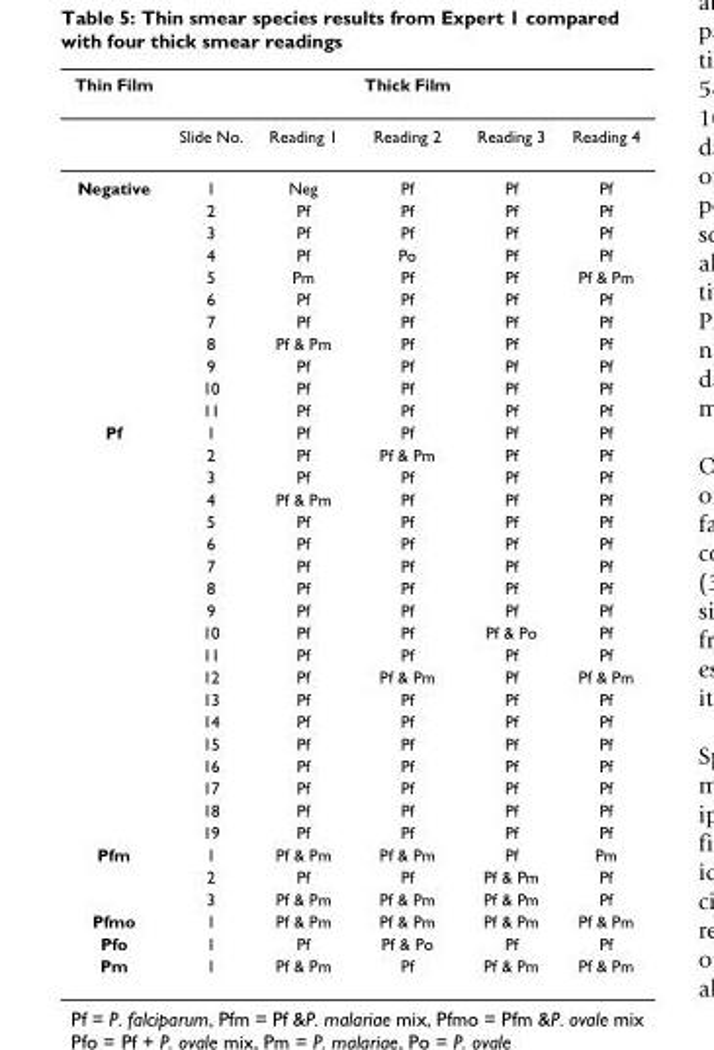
<table><thead><tr><td>Thin Film</td><td></td><td></td><td>Thick Film</td><td></td><td></td></tr></thead><tbody><tr><td></td><td>Slide No.</td><td>Reading 1</td><td>Reading 2</td><td>Reading 3</td><td>Reading 4</td></tr><tr><td rowspan="11">Negative</td><td>1</td><td>Neg</td><td>Pf</td><td>Pf</td><td>Pf</td></tr><tr><td>2</td><td>Pf</td><td>Pf</td><td>Pf</td><td>Pf</td></tr><tr><td>3</td><td>Pf</td><td>Pf</td><td>Pf</td><td>Pf</td></tr><tr><td>4</td><td>Pf</td><td>Po</td><td>Pf</td><td>Pf</td></tr><tr><td>5</td><td>Pm</td><td>Pf</td><td>Pf</td><td>Pf &amp; Pm</td></tr><tr><td>6</td><td>Pf</td><td>Pf</td><td>Pf</td><td>Pf</td></tr><tr><td>7</td><td>Pf</td><td>Pf</td><td>Pf</td><td>Pf</td></tr><tr><td>8</td><td>Pf &amp; Pm</td><td>Pf</td><td>Pf</td><td>Pf</td></tr><tr><td>9</td><td>Pf</td><td>Pf</td><td>Pf</td><td>Pf</td></tr><tr><td>10</td><td>Pf</td><td>Pf</td><td>Pf</td><td>Pf</td></tr><tr><td>11</td><td>Pf</td><td>Pf</td><td>Pf</td><td>Pf</td></tr><tr><td rowspan="19">Pf</td><td>1</td><td>Pf</td><td>Pf</td><td>Pf</td><td>Pf</td></tr><tr><td>2</td><td>Pf</td><td>Pf &amp; Pm</td><td>Pf</td><td>Pf</td></tr><tr><td>3</td><td>Pf</td><td>Pf</td><td>Pf</td><td>Pf</td></tr><tr><td>4</td><td>Pf &amp; Pm</td><td>Pf</td><td>Pf</td><td>Pf</td></tr><tr><td>5</td><td>Pf</td><td>Pf</td><td>Pf</td><td>Pf</td></tr><tr><td>6</td><td>Pf</td><td>Pf</td><td>Pf</td><td>Pf</td></tr><tr><td>7</td><td>Pf</td><td>Pf</td><td>Pf</td><td>Pf</td></tr><tr><td>8</td><td>Pf</td><td>Pf</td><td>Pf</td><td>Pf</td></tr><tr><td>9</td><td>Pf</td><td>Pf</td><td>Pf</td><td>Pf</td></tr><tr><td>10</td><td>Pf</td><td>Pf</td><td>Pf &amp; Po</td><td>Pf</td></tr><tr><td>11</td><td>Pf</td><td>Pf</td><td>Pf</td><td>Pf</td></tr><tr><td>12</td><td>Pf</td><td>Pf &amp; Pm</td><td>Pf</td><td>Pf &amp; Pm</td></tr><tr><td>13</td><td>Pf</td><td>Pf</td><td>Pf</td><td>Pf</td></tr><tr><td>14</td><td>Pf</td><td>Pf</td><td>Pf</td><td>Pf</td></tr><tr><td>15</td><td>Pf</td><td>Pf</td><td>Pf</td><td>Pf</td></tr><tr><td>16</td><td>Pf</td><td>Pf</td><td>Pf</td><td>Pf</td></tr><tr><td>17</td><td>Pf</td><td>Pf</td><td>Pf</td><td>Pf</td></tr><tr><td>18</td><td>Pf</td><td>Pf</td><td>Pf</td><td>Pf</td></tr><tr><td>19</td><td>Pf</td><td>Pf</td><td>Pf</td><td>Pf</td></tr><tr><td rowspan="3">Pfm</td><td>1</td><td>Pf &amp; Pm</td><td>Pf &amp; Pm</td><td>Pf</td><td>Pm</td></tr><tr><td>2</td><td>Pf</td><td>Pf</td><td>Pf &amp; Pm</td><td>Pf</td></tr><tr><td>3</td><td>Pf &amp; Pm</td><td>Pf &amp; Pm</td><td>Pf &amp; Pm</td><td>Pf</td></tr><tr><td>Pfmo</td><td>1</td><td>Pf &amp; Pm</td><td>Pf &amp; Pm</td><td>Pf &amp; Pm</td><td>Pf &amp; Pm</td></tr><tr><td>Pfo</td><td>1</td><td>Pf</td><td>Pf &amp; Po</td><td>Pf</td><td>Pf</td></tr><tr><td>Pm</td><td>1</td><td>Pf &amp; Pm</td><td>Pf</td><td>Pf &amp; Pm</td><td>Pf &amp; Pm</td></tr></tbody></table>